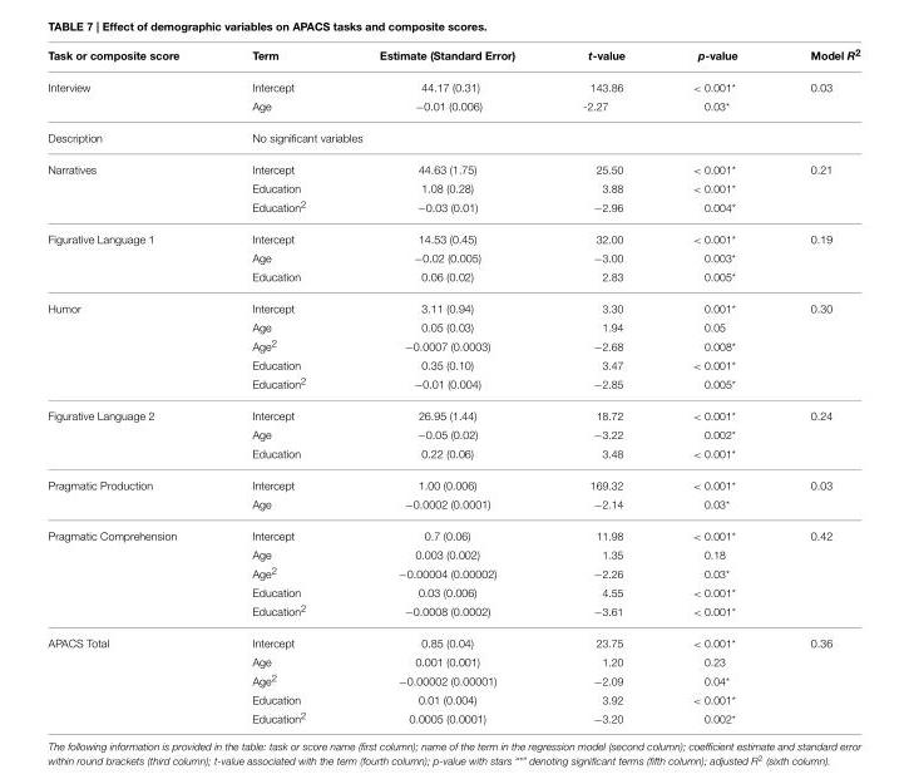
<table><thead><tr><td>Task or composite score</td><td>Term</td><td>Estimate (Standard Error)</td><td>t-value</td><td>p-value</td><td>Model R<sup>2</sup></td></tr></thead><tbody><tr><td rowspan="2">Interview</td><td>Intercept</td><td>44.17 (0.31)</td><td>143.86</td><td>&lt; 0.001*</td><td>0.03</td></tr><tr><td>Age</td><td>−0.01 (0.006)</td><td>-2.27</td><td>0.03*</td><td></td></tr><tr><td>Description</td><td colspan="2">No significant variables</td><td></td><td></td><td></td></tr><tr><td rowspan="3">Narratives</td><td>Intercept</td><td>44.63 (1.75)</td><td>25.50</td><td>&lt; 0.001*</td><td>0.21</td></tr><tr><td>Education</td><td>1.08 (0.28)</td><td>3.88</td><td>&lt; 0.001*</td><td></td></tr><tr><td>Education<sup>2</sup></td><td>−0.03 (0.01)</td><td>−2.96</td><td>0.004*</td><td></td></tr><tr><td rowspan="3">Figurative Language 1</td><td>Intercept</td><td>14.53 (0.45)</td><td>32.00</td><td>&lt; 0.001*</td><td>0.19</td></tr><tr><td>Age</td><td>−0.02 (0.005)</td><td>−3.00</td><td>0.003*</td><td></td></tr><tr><td>Education</td><td>0.06 (0.02)</td><td>2.83</td><td>0.005*</td><td></td></tr><tr><td rowspan="5">Humor</td><td>Intercept</td><td>3.11 (0.94)</td><td>3.30</td><td>0.001*</td><td>0.30</td></tr><tr><td>Age</td><td>0.05 (0.03)</td><td>1.94</td><td>0.05</td><td></td></tr><tr><td>Age<sup>2</sup></td><td>−0.0007 (0.0003)</td><td>−2.68</td><td>0.008*</td><td></td></tr><tr><td>Education</td><td>0.35 (0.10)</td><td>3.47</td><td>&lt; 0.001*</td><td></td></tr><tr><td>Education<sup>2</sup></td><td>−0.01 (0.004)</td><td>−2.85</td><td>0.005*</td><td></td></tr><tr><td rowspan="3">Figurative Language 2</td><td>Intercept</td><td>26.95 (1.44)</td><td>18.72</td><td>&lt; 0.001*</td><td>0.24</td></tr><tr><td>Age</td><td>−0.05 (0.02)</td><td>−3.22</td><td>0.002*</td><td></td></tr><tr><td>Education</td><td>0.22 (0.06)</td><td>3.48</td><td>&lt; 0.001*</td><td></td></tr><tr><td rowspan="2">Pragmatic Production</td><td>Intercept</td><td>1.00 (0.006)</td><td>169.32</td><td>&lt; 0.001*</td><td>0.03</td></tr><tr><td>Age</td><td>−0.0002 (0.0001)</td><td>−2.14</td><td>0.03*</td><td></td></tr><tr><td rowspan="5">Pragmatic Comprehension</td><td>Intercept</td><td>0.7 (0.06)</td><td>11.98</td><td>&lt; 0.001*</td><td>0.42</td></tr><tr><td>Age</td><td>0.003 (0.002)</td><td>1.35</td><td>0.18</td><td></td></tr><tr><td>Age<sup>2</sup></td><td>−0.00004 (0.00002)</td><td>−2.26</td><td>0.03*</td><td></td></tr><tr><td>Education</td><td>0.03 (0.006)</td><td>4.55</td><td>&lt; 0.001*</td><td></td></tr><tr><td>Education<sup>2</sup></td><td>−0.0008 (0.0002)</td><td>−3.61</td><td>&lt; 0.001*</td><td></td></tr><tr><td rowspan="5">APACS Total</td><td>Intercept</td><td>0.85 (0.04)</td><td>23.75</td><td>&lt; 0.001*</td><td>0.36</td></tr><tr><td>Age</td><td>0.001 (0.001)</td><td>1.20</td><td>0.23</td><td></td></tr><tr><td>Age<sup>2</sup></td><td>−0.00002 (0.00001)</td><td>−2.09</td><td>0.04*</td><td></td></tr><tr><td>Education</td><td>0.01 (0.004)</td><td>3.92</td><td>&lt; 0.001*</td><td></td></tr><tr><td>Education<sup>2</sup></td><td>0.0005 (0.0001)</td><td>−3.20</td><td>0.002*</td><td></td></tr></tbody></table>